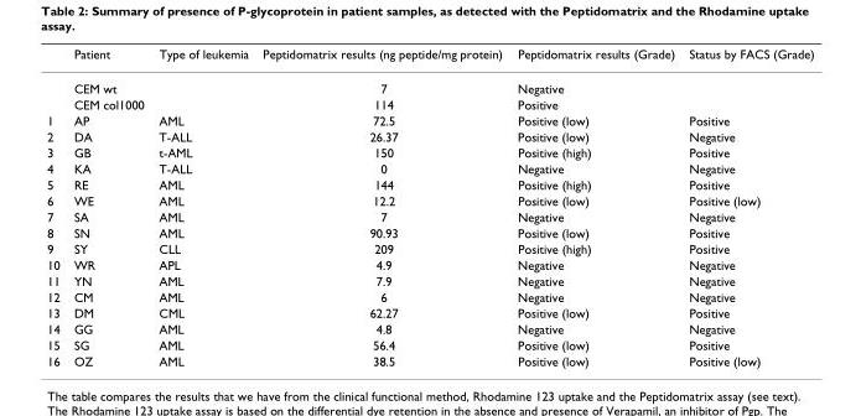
<table><thead><tr><td></td><td>Patient</td><td>Type of leukemia</td><td>Peptidomatrix results (ng peptide/mg protein)</td><td>Peptidomatrix results (Grade)</td><td>Status by FACS (Grade)</td></tr></thead><tbody><tr><td></td><td>CEM wt</td><td></td><td>7</td><td>Negative</td><td></td></tr><tr><td></td><td>CEM col1000</td><td></td><td>114</td><td>Positive</td><td></td></tr><tr><td>1</td><td>AP</td><td>AML</td><td>72.5</td><td>Positive (low)</td><td>Positive</td></tr><tr><td>2</td><td>DA</td><td>T-ALL</td><td>26.37</td><td>Positive (low)</td><td>Negative</td></tr><tr><td>3</td><td>GB</td><td>t-AML</td><td>150</td><td>Positive (high)</td><td>Positive</td></tr><tr><td>4</td><td>KA</td><td>T-ALL</td><td>0</td><td>Negative</td><td>Negative</td></tr><tr><td>5</td><td>RE</td><td>AML</td><td>144</td><td>Positive (high)</td><td>Positive</td></tr><tr><td>6</td><td>WE</td><td>AML</td><td>12.2</td><td>Positive (low)</td><td>Positive (low)</td></tr><tr><td>7</td><td>SA</td><td>AML</td><td>7</td><td>Negative</td><td>Negative</td></tr><tr><td>8</td><td>SN</td><td>AML</td><td>90.93</td><td>Positive (low)</td><td>Positive</td></tr><tr><td>9</td><td>SY</td><td>CLL</td><td>209</td><td>Positive (high)</td><td>Positive</td></tr><tr><td>10</td><td>WR</td><td>APL</td><td>4.9</td><td>Negative</td><td>Negative</td></tr><tr><td>11</td><td>YN</td><td>AML</td><td>7.9</td><td>Negative</td><td>Negative</td></tr><tr><td>12</td><td>CM</td><td>AML</td><td>6</td><td>Negative</td><td>Negative</td></tr><tr><td>13</td><td>DM</td><td>CML</td><td>62.27</td><td>Positive (low)</td><td>Positive</td></tr><tr><td>14</td><td>GG</td><td>AML</td><td>4.8</td><td>Negative</td><td>Negative</td></tr><tr><td>15</td><td>SG</td><td>AML</td><td>56.4</td><td>Positive (low)</td><td>Positive</td></tr><tr><td>16</td><td>OZ</td><td>AML</td><td>38.5</td><td>Positive (low)</td><td>Positive (low)</td></tr></tbody></table>